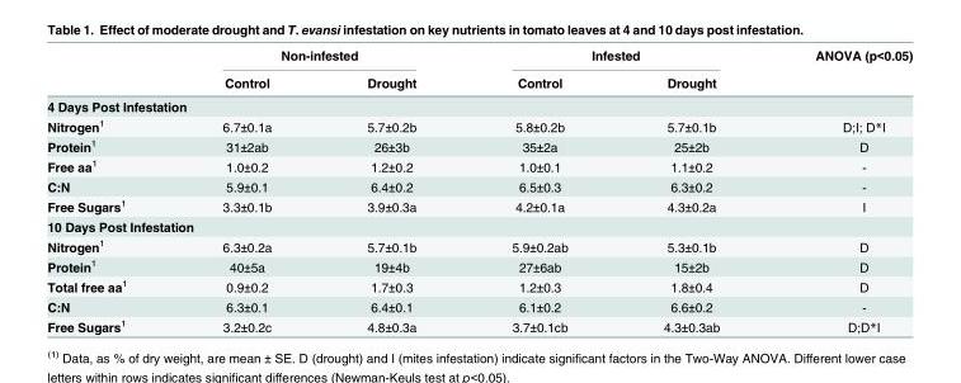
<table><thead><tr><td rowspan="2"></td><td colspan="2">Non-infested</td><td colspan="2">Infested</td><td rowspan="2">ANOVA (p&lt;0.05)</td></tr><tr><td>Control</td><td>Drought</td><td>Control</td><td>Drought</td></tr></thead><tbody><tr><td colspan="6">4 Days Post Infestation</td></tr><tr><td>Nitrogen<sup>1</sup></td><td>6.7±0.1a</td><td>5.7±0.2b</td><td>5.8±0.2b</td><td>5.7±0.1b</td><td>D;I; D*I</td></tr><tr><td>Protein<sup>1</sup></td><td>31±2ab</td><td>26±3b</td><td>35±2a</td><td>25±2b</td><td>D</td></tr><tr><td>Free aa<sup>1</sup></td><td>1.0±0.2</td><td>1.2±0.2</td><td>1.0±0.1</td><td>1.1±0.2</td><td>-</td></tr><tr><td>C:N</td><td>5.9±0.1</td><td>6.4±0.2</td><td>6.5±0.3</td><td>6.3±0.2</td><td>-</td></tr><tr><td>Free Sugars<sup>1</sup></td><td>3.3±0.1b</td><td>3.9±0.3a</td><td>4.2±0.1a</td><td>4.3±0.2a</td><td>I</td></tr><tr><td colspan="6">10 Days Post Infestation</td></tr><tr><td>Nitrogen<sup>1</sup></td><td>6.3±0.2a</td><td>5.7±0.1b</td><td>5.9±0.2ab</td><td>5.3±0.1b</td><td>D</td></tr><tr><td>Protein<sup>1</sup></td><td>40±5a</td><td>19±4b</td><td>27±6ab</td><td>15±2b</td><td>D</td></tr><tr><td>Total free aa<sup>1</sup></td><td>0.9±0.2</td><td>1.7±0.3</td><td>1.2±0.3</td><td>1.8±0.4</td><td>D</td></tr><tr><td>C:N</td><td>6.3±0.1</td><td>6.4±0.1</td><td>6.1±0.2</td><td>6.6±0.2</td><td>-</td></tr><tr><td>Free Sugars<sup>1</sup></td><td>3.2±0.2c</td><td>4.8±0.3a</td><td>3.7±0.1cb</td><td>4.3±0.3ab</td><td>D;D*I</td></tr></tbody></table>